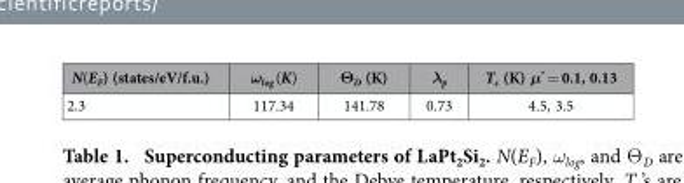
<table><thead><tr><td>N(E<sub>F</sub>) (states/eV/f.u.)</td><td>ω<sub>log</sub> (K)</td><td>Θ<sub>D</sub> (K)</td><td>λ<sub>p</sub></td><td>T<sub>c</sub> (K) μ* = 0.1, 0.13</td></tr></thead><tbody><tr><td>2.3</td><td>117.34</td><td>141.78</td><td>0.73</td><td>4.5, 3.5</td></tr></tbody></table>